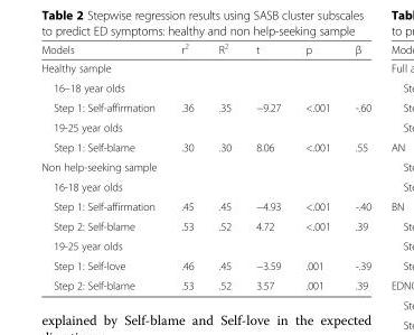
<table><thead><tr><td>Models</td><td>r<sup>2</sup></td><td>R<sup>2</sup></td><td>t</td><td>p</td><td>β</td></tr></thead><tbody><tr><td colspan="6">Healthy sample</td></tr><tr><td colspan="6">16–18 year olds</td></tr><tr><td>Step 1: Self-affirmation</td><td>.36</td><td>.35</td><td>−9.27</td><td>&lt;.001</td><td>-.60</td></tr><tr><td colspan="6">19-25 year olds</td></tr><tr><td>Step 1: Self-blame</td><td>.30</td><td>.30</td><td>8.06</td><td>&lt;.001</td><td>.55</td></tr><tr><td colspan="6">Non help-seeking sample</td></tr><tr><td colspan="6">16-18 year olds</td></tr><tr><td>Step 1: Self-affirmation</td><td>.45</td><td>.45</td><td>−4.93</td><td>&lt;.001</td><td>-.40</td></tr><tr><td>Step 2: Self-blame</td><td>.53</td><td>.52</td><td>4.72</td><td>&lt;.001</td><td>.39</td></tr><tr><td colspan="6">19-25 year olds</td></tr><tr><td>Step 1: Self-love</td><td>.46</td><td>.45</td><td>−3.59</td><td>.001</td><td>-.39</td></tr><tr><td>Step 2: Self-blame</td><td>.53</td><td>.52</td><td>3.57</td><td>.001</td><td>.39</td></tr></tbody></table>